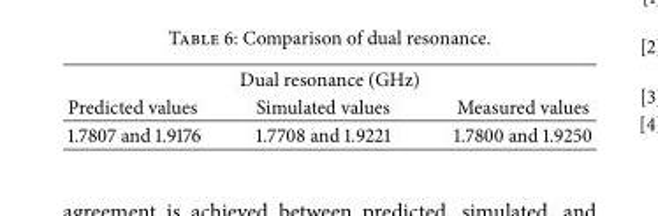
<table><thead><tr><td colspan="3">Dual resonance (GHz)</td></tr><tr><td>Predicted values</td><td>Simulated values</td><td>Measured values</td></tr></thead><tbody><tr><td>1.7807 and 1.9176</td><td>1.7708 and 1.9221</td><td>1.7800 and 1.9250</td></tr></tbody></table>